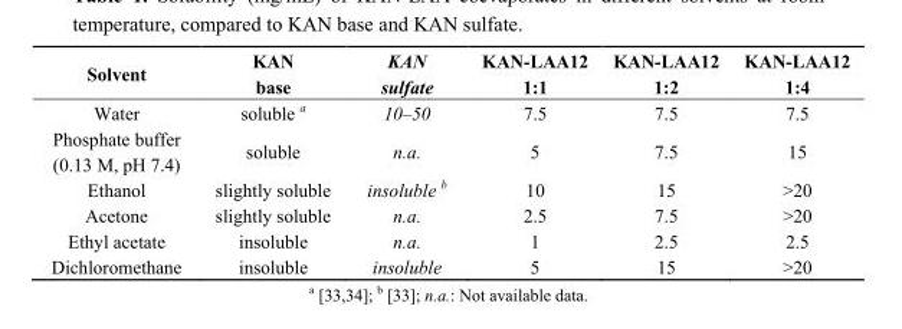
<table><thead><tr><td>Solvent</td><td>KAN base</td><td>KAN sulfate</td><td>KAN-LAA12 1:1</td><td>KAN-LAA12 1:2</td><td>KAN-LAA12 1:4</td></tr></thead><tbody><tr><td>Water</td><td>soluble <sup>a</sup></td><td>10–50</td><td>7.5</td><td>7.5</td><td>7.5</td></tr><tr><td>Phosphate buffer (0.13 M, pH 7.4)</td><td>soluble</td><td>n.a.</td><td>5</td><td>7.5</td><td>15</td></tr><tr><td>Ethanol</td><td>slightly soluble</td><td>insoluble <sup>b</sup></td><td>10</td><td>15</td><td>&gt;20</td></tr><tr><td>Acetone</td><td>slightly soluble</td><td>n.a.</td><td>2.5</td><td>7.5</td><td>&gt;20</td></tr><tr><td>Ethyl acetate</td><td>insoluble</td><td>n.a.</td><td>1</td><td>2.5</td><td>2.5</td></tr><tr><td>Dichloromethane</td><td>insoluble</td><td>insoluble</td><td>5</td><td>15</td><td>&gt;20</td></tr></tbody></table>